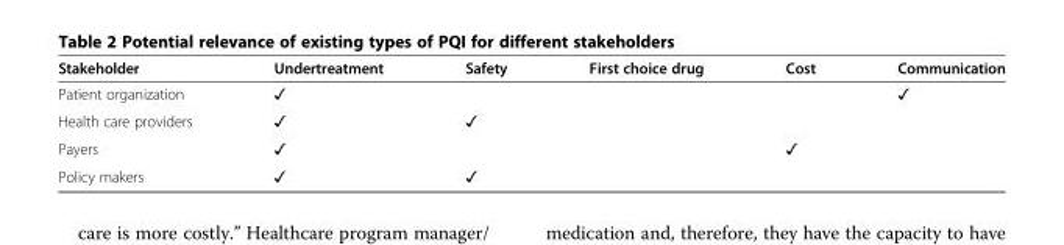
<table><thead><tr><td>Stakeholder</td><td>Undertreatment</td><td>Safety</td><td>First choice drug</td><td>Cost</td><td>Communication</td></tr></thead><tbody><tr><td>Patient organization</td><td>✓</td><td></td><td></td><td></td><td>✓</td></tr><tr><td>Health care providers</td><td>✓</td><td>✓</td><td></td><td></td><td></td></tr><tr><td>Payers</td><td>✓</td><td></td><td></td><td>✓</td><td></td></tr><tr><td>Policy makers</td><td>✓</td><td>✓</td><td></td><td></td><td></td></tr></tbody></table>